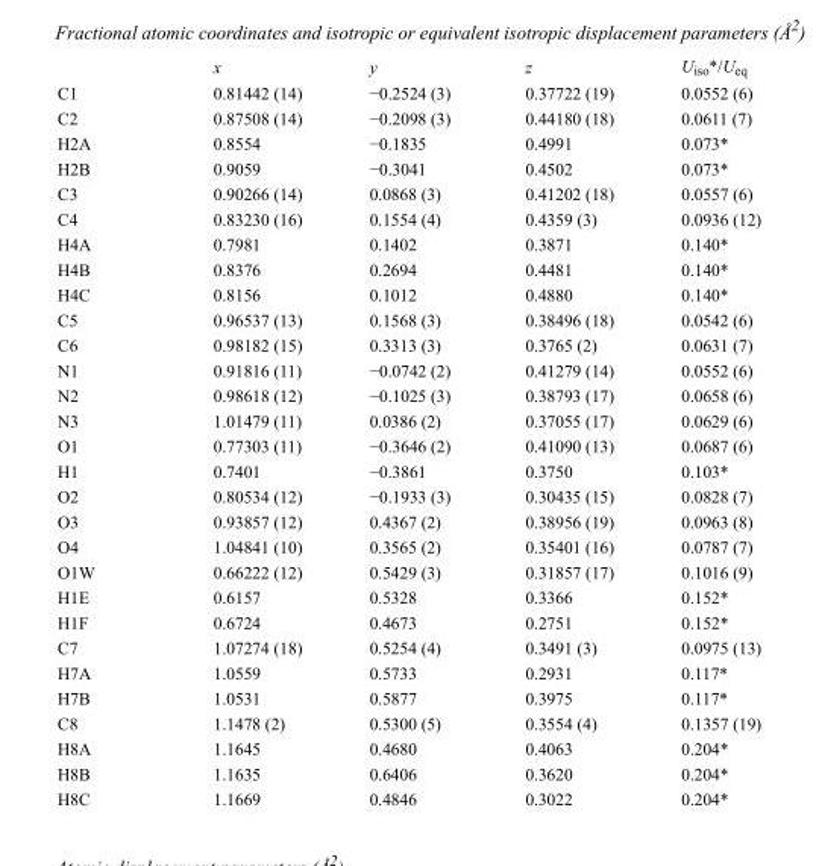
<table><thead><tr><td></td><td>x</td><td>y</td><td>z</td><td>U<sub>iso</sub>*/U<sub>eq</sub></td></tr></thead><tbody><tr><td>C1</td><td>0.81442 (14)</td><td>−0.2524 (3)</td><td>0.37722 (19)</td><td>0.0552 (6)</td></tr><tr><td>C2</td><td>0.87508 (14)</td><td>−0.2098 (3)</td><td>0.44180 (18)</td><td>0.0611 (7)</td></tr><tr><td>H2A</td><td>0.8554</td><td>−0.1835</td><td>0.4991</td><td>0.073*</td></tr><tr><td>H2B</td><td>0.9059</td><td>−0.3041</td><td>0.4502</td><td>0.073*</td></tr><tr><td>C3</td><td>0.90266 (14)</td><td>0.0868 (3)</td><td>0.41202 (18)</td><td>0.0557 (6)</td></tr><tr><td>C4</td><td>0.83230 (16)</td><td>0.1554 (4)</td><td>0.4359 (3)</td><td>0.0936 (12)</td></tr><tr><td>H4A</td><td>0.7981</td><td>0.1402</td><td>0.3871</td><td>0.140*</td></tr><tr><td>H4B</td><td>0.8376</td><td>0.2694</td><td>0.4481</td><td>0.140*</td></tr><tr><td>H4C</td><td>0.8156</td><td>0.1012</td><td>0.4880</td><td>0.140*</td></tr><tr><td>C5</td><td>0.96537 (13)</td><td>0.1568 (3)</td><td>0.38496 (18)</td><td>0.0542 (6)</td></tr><tr><td>C6</td><td>0.98182 (15)</td><td>0.3313 (3)</td><td>0.3765 (2)</td><td>0.0631 (7)</td></tr><tr><td>N1</td><td>0.91816 (11)</td><td>−0.0742 (2)</td><td>0.41279 (14)</td><td>0.0552 (6)</td></tr><tr><td>N2</td><td>0.98618 (12)</td><td>−0.1025 (3)</td><td>0.38793 (17)</td><td>0.0658 (6)</td></tr><tr><td>N3</td><td>1.01479 (11)</td><td>0.0386 (2)</td><td>0.37055 (17)</td><td>0.0629 (6)</td></tr><tr><td>O1</td><td>0.77303 (11)</td><td>−0.3646 (2)</td><td>0.41090 (13)</td><td>0.0687 (6)</td></tr><tr><td>H1</td><td>0.7401</td><td>−0.3861</td><td>0.3750</td><td>0.103*</td></tr><tr><td>O2</td><td>0.80534 (12)</td><td>−0.1933 (3)</td><td>0.30435 (15)</td><td>0.0828 (7)</td></tr><tr><td>O3</td><td>0.93857 (12)</td><td>0.4367 (2)</td><td>0.38956 (19)</td><td>0.0963 (8)</td></tr><tr><td>O4</td><td>1.04841 (10)</td><td>0.3565 (2)</td><td>0.35401 (16)</td><td>0.0787 (7)</td></tr><tr><td>O1W</td><td>0.66222 (12)</td><td>0.5429 (3)</td><td>0.31857 (17)</td><td>0.1016 (9)</td></tr><tr><td>H1E</td><td>0.6157</td><td>0.5328</td><td>0.3366</td><td>0.152*</td></tr><tr><td>H1F</td><td>0.6724</td><td>0.4673</td><td>0.2751</td><td>0.152*</td></tr><tr><td>C7</td><td>1.07274 (18)</td><td>0.5254 (4)</td><td>0.3491 (3)</td><td>0.0975 (13)</td></tr><tr><td>H7A</td><td>1.0559</td><td>0.5733</td><td>0.2931</td><td>0.117*</td></tr><tr><td>H7B</td><td>1.0531</td><td>0.5877</td><td>0.3975</td><td>0.117*</td></tr><tr><td>C8</td><td>1.1478 (2)</td><td>0.5300 (5)</td><td>0.3554 (4)</td><td>0.1357 (19)</td></tr><tr><td>H8A</td><td>1.1645</td><td>0.4680</td><td>0.4063</td><td>0.204*</td></tr><tr><td>H8B</td><td>1.1635</td><td>0.6406</td><td>0.3620</td><td>0.204*</td></tr><tr><td>H8C</td><td>1.1669</td><td>0.4846</td><td>0.3022</td><td>0.204*</td></tr></tbody></table>